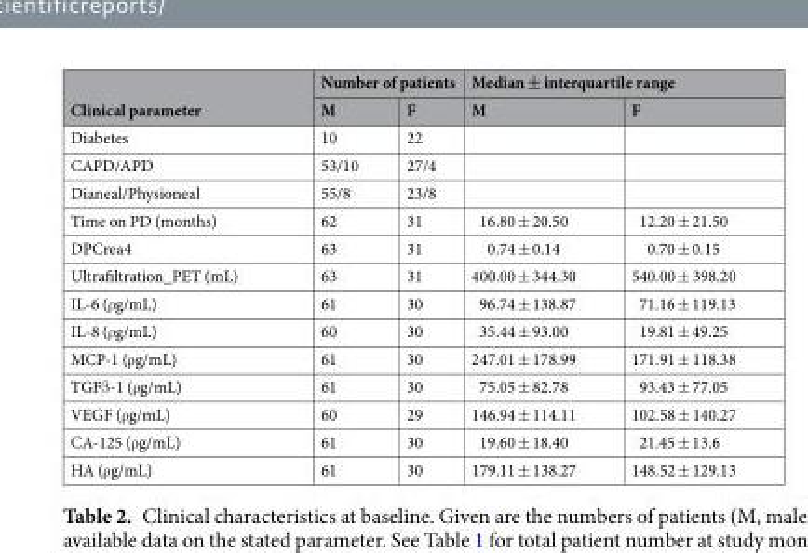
<table><thead><tr><td rowspan="2">Clinical parameter</td><td colspan="2">Number of patients</td><td colspan="2">Median ± interquartile range</td></tr><tr><td>M</td><td>F</td><td>M</td><td>F</td></tr></thead><tbody><tr><td>Diabetes</td><td>10</td><td>22</td><td></td><td></td></tr><tr><td>CAPD/APD</td><td>53/10</td><td>27/4</td><td></td><td></td></tr><tr><td>Dianeal/Physioneal</td><td>55/8</td><td>23/8</td><td></td><td></td></tr><tr><td>Time on PD (months)</td><td>62</td><td>31</td><td>16.80 ± 20.50</td><td>12.20 ± 21.50</td></tr><tr><td>DPCrea4</td><td>63</td><td>31</td><td>0.74 ± 0.14</td><td>0.70 ± 0.15</td></tr><tr><td>Ultrafiltration_PET (mL)</td><td>63</td><td>31</td><td>400.00 ± 344.30</td><td>540.00 ± 398.20</td></tr><tr><td>IL-6 (ρg/mL)</td><td>61</td><td>30</td><td>96.74 ± 138.87</td><td>71.16 ± 119.13</td></tr><tr><td>IL-8 (ρg/mL)</td><td>60</td><td>30</td><td>35.44 ± 93.00</td><td>19.81 ± 49.25</td></tr><tr><td>MCP-1 (ρg/mL)</td><td>61</td><td>30</td><td>247.01 ± 178.99</td><td>171.91 ± 118.38</td></tr><tr><td>TGFβ-1 (ρg/mL)</td><td>61</td><td>30</td><td>75.05 ± 82.78</td><td>93.43 ± 77.05</td></tr><tr><td>VEGF (ρg/mL)</td><td>60</td><td>29</td><td>146.94 ± 114.11</td><td>102.58 ± 140.27</td></tr><tr><td>CA-125 (ρg/mL)</td><td>61</td><td>30</td><td>19.60 ± 18.40</td><td>21.45 ± 13.6</td></tr><tr><td>HA (ρg/mL)</td><td>61</td><td>30</td><td>179.11 ± 138.27</td><td>148.52 ± 129.13</td></tr></tbody></table>